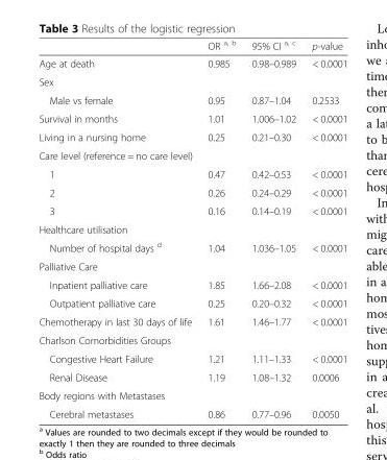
<table><thead><tr><td></td><td>OR <sup>a, b</sup></td><td>95% CI <sup>a, c</sup></td><td>p-value</td></tr></thead><tbody><tr><td>Age at death</td><td>0.985</td><td>0.98–0.989</td><td>&lt; 0.0001</td></tr><tr><td colspan="4">Sex</td></tr><tr><td>Male vs female</td><td>0.95</td><td>0.87–1.04</td><td>0.2533</td></tr><tr><td>Survival in months</td><td>1.01</td><td>1.006–1.02</td><td>&lt; 0.0001</td></tr><tr><td>Living in a nursing home</td><td>0.25</td><td>0.21–0.30</td><td>&lt; 0.0001</td></tr><tr><td colspan="4">Care level (reference = no care level)</td></tr><tr><td>1</td><td>0.47</td><td>0.42–0.53</td><td>&lt; 0.0001</td></tr><tr><td>2</td><td>0.26</td><td>0.24–0.29</td><td>&lt; 0.0001</td></tr><tr><td>3</td><td>0.16</td><td>0.14–0.19</td><td>&lt; 0.0001</td></tr><tr><td colspan="4">Healthcare utilisation</td></tr><tr><td>Number of hospital days <sup>d</sup></td><td>1.04</td><td>1.036–1.05</td><td>&lt; 0.0001</td></tr><tr><td colspan="4">Palliative Care</td></tr><tr><td>Inpatient palliative care</td><td>1.85</td><td>1.66–2.08</td><td>&lt; 0.0001</td></tr><tr><td>Outpatient palliative care</td><td>0.25</td><td>0.20–0.32</td><td>&lt; 0.0001</td></tr><tr><td>Chemotherapy in last 30 days of life</td><td>1.61</td><td>1.46–1.77</td><td>&lt; 0.0001</td></tr><tr><td colspan="4">Charlson Comorbidities Groups</td></tr><tr><td>Congestive Heart Failure</td><td>1.21</td><td>1.11–1.33</td><td>&lt; 0.0001</td></tr><tr><td>Renal Disease</td><td>1.19</td><td>1.08–1.32</td><td>0.0006</td></tr><tr><td colspan="4">Body regions with Metastases</td></tr><tr><td>Cerebral metastases</td><td>0.86</td><td>0.77–0.96</td><td>0.0050</td></tr></tbody></table>